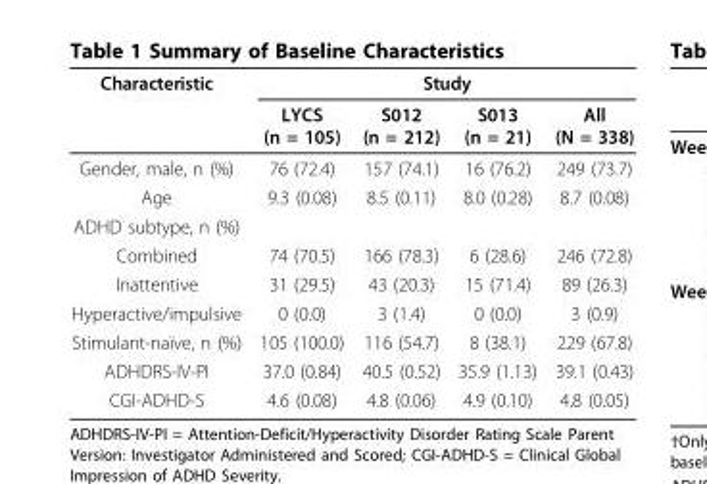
<table><thead><tr><td rowspan="2">Characteristic</td><td colspan="4">Study</td></tr><tr><td>LYCS (n = 105)</td><td>S012 (n = 212)</td><td>S013 (n = 21)</td><td>All (N = 338)</td></tr></thead><tbody><tr><td>Gender, male, n (%)</td><td>76 (72.4)</td><td>157 (74.1)</td><td>16 (76.2)</td><td>249 (73.7)</td></tr><tr><td>Age</td><td>9.3 (0.08)</td><td>8.5 (0.11)</td><td>8.0 (0.28)</td><td>8.7 (0.08)</td></tr><tr><td colspan="5">ADHD subtype, n (%)</td></tr><tr><td>Combined</td><td>74 (70.5)</td><td>166 (78.3)</td><td>6 (28.6)</td><td>246 (72.8)</td></tr><tr><td>Inattentive</td><td>31 (29.5)</td><td>43 (20.3)</td><td>15 (71.4)</td><td>89 (26.3)</td></tr><tr><td>Hyperactive/impulsive</td><td>0 (0.0)</td><td>3 (1.4)</td><td>0 (0.0)</td><td>3 (0.9)</td></tr><tr><td>Stimulant-naïve, n (%)</td><td>105 (100.0)</td><td>116 (54.7)</td><td>8 (38.1)</td><td>229 (67.8)</td></tr><tr><td>ADHDRS-IV-PI</td><td>37.0 (0.84)</td><td>40.5 (0.52)</td><td>35.9 (1.13)</td><td>39.1 (0.43)</td></tr><tr><td>CGI-ADHD-S</td><td>4.6 (0.08)</td><td>4.8 (0.06)</td><td>4.9 (0.10)</td><td>4.8 (0.05)</td></tr></tbody></table>